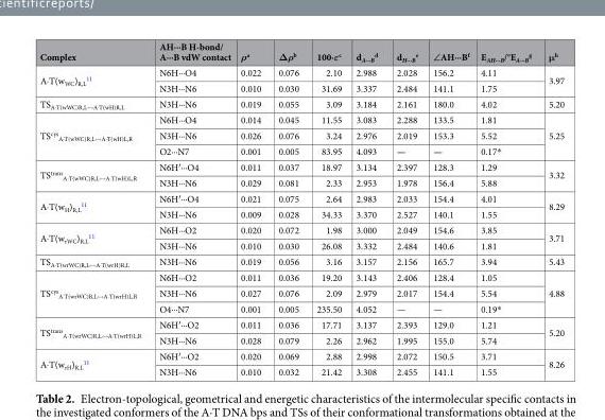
<table><thead><tr><td>Complex</td><td>AH···B H-bond/ A···B vdW contact</td><td>ρ<sup>a</sup></td><td>Δρ<sup>b</sup></td><td>100·ε<sup>c</sup></td><td>d<sub>A∙∙∙B</sub> <sup>d</sup></td><td>d<sub>H∙∙∙B</sub> <sup>e</sup></td><td>∠AH∙∙∙B<sup>f</sup></td><td>E<sub>AH···B</sub>/°E<sub>A···B</sub> <sup>g</sup></td><td>μ<sup>h</sup></td></tr></thead><tbody><tr><td rowspan="2">А·Т(w<sub>WC</sub>)<sub>R,L</sub> <sup>11</sup></td><td>N6H∙∙∙O4</td><td>0.022</td><td>0.076</td><td>2.10</td><td>2.988</td><td>2.028</td><td>156.2</td><td>4.11</td><td rowspan="2">3.97</td></tr><tr><td>N3H∙∙∙N6</td><td>0.010</td><td>0.030</td><td>31.69</td><td>3.337</td><td>2.484</td><td>141.1</td><td>1.75</td></tr><tr><td>TS<sub>А·Т(wWC)R,L↔А·Т(wН)R,L</sub></td><td>N3H∙∙∙N6</td><td>0.019</td><td>0.055</td><td>3.09</td><td>3.184</td><td>2.161</td><td>180.0</td><td>4.02</td><td>5.20</td></tr><tr><td rowspan="3">TS<sup>cys</sup> <sub>А·Т(wWC)R,L↔А·Т(wН)L,R</sub></td><td>N6H∙∙∙O4</td><td>0.014</td><td>0.045</td><td>11.55</td><td>3.083</td><td>2.288</td><td>133.5</td><td>1.81</td><td rowspan="3">5.25</td></tr><tr><td>N3H∙∙∙N6</td><td>0.026</td><td>0.076</td><td>3.24</td><td>2.976</td><td>2.019</td><td>153.3</td><td>5.52</td></tr><tr><td>O2∙∙∙N7</td><td>0.001</td><td>0.005</td><td>83.95</td><td>4.093</td><td>—</td><td>—</td><td>0.17*</td></tr><tr><td rowspan="2">TS<sup>trans</sup> <sub>А·Т(wWC)R,L↔А·Т(wН)L,R</sub></td><td>N6H′∙∙∙O4</td><td>0.011</td><td>0.037</td><td>18.97</td><td>3.134</td><td>2.397</td><td>128.3</td><td>1.29</td><td rowspan="2">3.32</td></tr><tr><td>N3H∙∙∙N6</td><td>0.029</td><td>0.081</td><td>2.33</td><td>2.953</td><td>1.978</td><td>156.4</td><td>5.88</td></tr><tr><td rowspan="2">А·Т(w<sub>Н</sub>)<sub>R,L</sub> <sup>11</sup></td><td>N6H′∙∙∙O4</td><td>0.021</td><td>0.075</td><td>2.64</td><td>2.983</td><td>2.033</td><td>154.4</td><td>4.01</td><td rowspan="2">8.29</td></tr><tr><td>N3H∙∙∙N6</td><td>0.009</td><td>0.028</td><td>34.33</td><td>3.370</td><td>2.527</td><td>140.1</td><td>1.55</td></tr><tr><td rowspan="2">А·Т(w<sub>rWC</sub>)<sub>R,L</sub> <sup>11</sup></td><td>N6H∙∙∙O2</td><td>0.020</td><td>0.072</td><td>1.98</td><td>3.000</td><td>2.049</td><td>154.6</td><td>3.85</td><td rowspan="2">3.71</td></tr><tr><td>N3H∙∙∙N6</td><td>0.010</td><td>0.030</td><td>26.08</td><td>3.332</td><td>2.484</td><td>140.6</td><td>1.81</td></tr><tr><td>TS<sub>А·Т(wrWC)R,L↔А·Т(wrН)R,L</sub></td><td>N3H∙∙∙N6</td><td>0.019</td><td>0.056</td><td>3.16</td><td>3.157</td><td>2.156</td><td>165.7</td><td>3.94</td><td>5.43</td></tr><tr><td rowspan="3">TS<sup>cys</sup> <sub>А·Т(wrWC)R,L↔А·Т(wrН)L,R</sub></td><td>N6H∙∙∙O2</td><td>0.011</td><td>0.036</td><td>19.20</td><td>3.143</td><td>2.406</td><td>128.4</td><td>1.05</td><td rowspan="3">4.88</td></tr><tr><td>N3H∙∙∙N6</td><td>0.027</td><td>0.076</td><td>2.09</td><td>2.979</td><td>2.017</td><td>154.4</td><td>5.54</td></tr><tr><td>O4∙∙∙N7</td><td>0.001</td><td>0.005</td><td>235.50</td><td>4.052</td><td>—</td><td>—</td><td>0.19*</td></tr><tr><td rowspan="2">TS<sup>trans</sup> <sub>А·Т(wrWC)R,L↔А·Т(wrН)L,R</sub></td><td>N6H′∙∙∙O2</td><td>0.011</td><td>0.036</td><td>17.71</td><td>3.137</td><td>2.393</td><td>129.0</td><td>1.21</td><td rowspan="2">5.20</td></tr><tr><td>N3H∙∙∙N6</td><td>0.028</td><td>0.079</td><td>2.26</td><td>2.962</td><td>1.995</td><td>155.0</td><td>5.74</td></tr><tr><td rowspan="2">А·Т(w<sub>rН</sub>)<sub>R,L</sub> <sup>11</sup></td><td>N6H′∙∙∙O2</td><td>0.020</td><td>0.069</td><td>2.88</td><td>2.998</td><td>2.072</td><td>150.5</td><td>3.71</td><td rowspan="2">8.26</td></tr><tr><td>N3H∙∙∙N6</td><td>0.010</td><td>0.032</td><td>21.42</td><td>3.308</td><td>2.455</td><td>141.1</td><td>1.55</td></tr></tbody></table>